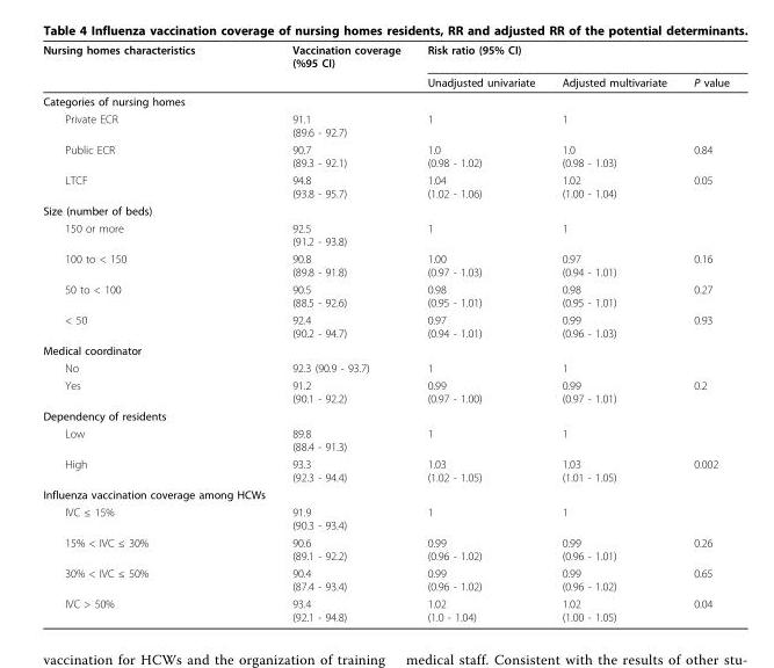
<table><thead><tr><td rowspan="2">Nursing homes characteristics</td><td rowspan="2">Vaccination coverage (%95 CI)</td><td colspan="3">Risk ratio (95% CI)</td></tr><tr><td>Unadjusted univariate</td><td>Adjusted multivariate</td><td>P value</td></tr></thead><tbody><tr><td colspan="5">Categories of nursing homes</td></tr><tr><td>Private ECR</td><td>91.1 (89.6 - 92.7)</td><td>1</td><td>1</td><td></td></tr><tr><td>Public ECR</td><td>90.7 (89.3 - 92.1)</td><td>1.0 (0.98 - 1.02)</td><td>1.0 (0.98 - 1.03)</td><td>0.84</td></tr><tr><td>LTCF</td><td>94.8 (93.8 - 95.7)</td><td>1.04 (1.02 - 1.06)</td><td>1.02 (1.00 - 1.04)</td><td>0.05</td></tr><tr><td colspan="5">Size (number of beds)</td></tr><tr><td>150 or more</td><td>92.5 (91.2 - 93.8)</td><td>1</td><td>1</td><td></td></tr><tr><td>100 to &lt; 150</td><td>90.8 (89.8 - 91.8)</td><td>1.00 (0.97 - 1.03)</td><td>0.97 (0.94 - 1.01)</td><td>0.16</td></tr><tr><td>50 to &lt; 100</td><td>90.5 (88.5 - 92.6)</td><td>0.98 (0.95 - 1.01)</td><td>0.98 (0.95 - 1.01)</td><td>0.27</td></tr><tr><td>&lt; 50</td><td>92.4 (90.2 - 94.7)</td><td>0.97 (0.94 - 1.01)</td><td>0.99 (0.96 - 1.03)</td><td>0.93</td></tr><tr><td colspan="5">Medical coordinator</td></tr><tr><td>No</td><td>92.3 (90.9 - 93.7)</td><td>1</td><td>1</td><td></td></tr><tr><td>Yes</td><td>91.2 (90.1 - 92.2)</td><td>0.99 (0.97 - 1.00)</td><td>0.99 (0.97 - 1.01)</td><td>0.2</td></tr><tr><td colspan="5">Dependency of residents</td></tr><tr><td>Low</td><td>89.8 (88.4 - 91.3)</td><td>1</td><td>1</td><td></td></tr><tr><td>High</td><td>93.3 (92.3 - 94.4)</td><td>1.03 (1.02 - 1.05)</td><td>1.03 (1.01 - 1.05)</td><td>0.002</td></tr><tr><td colspan="5">Influenza vaccination coverage among HCWs</td></tr><tr><td>IVC ≤ 15%</td><td>91.9 (90.3 - 93.4)</td><td>1</td><td>1</td><td></td></tr><tr><td>15% &lt; IVC ≤ 30%</td><td>90.6 (89.1 - 92.2)</td><td>0.99 (0.96 - 1.02)</td><td>0.99 (0.96 - 1.01)</td><td>0.26</td></tr><tr><td>30% &lt; IVC ≤ 50%</td><td>90.4 (87.4 - 93.4)</td><td>0.99 (0.96 - 1.02)</td><td>0.99 (0.96 - 1.02)</td><td>0.65</td></tr><tr><td>IVC &gt; 50%</td><td>93.4 (92.1 - 94.8)</td><td>1.02 (1.0 - 1.04)</td><td>1.02 (1.00 - 1.05)</td><td>0.04</td></tr></tbody></table>